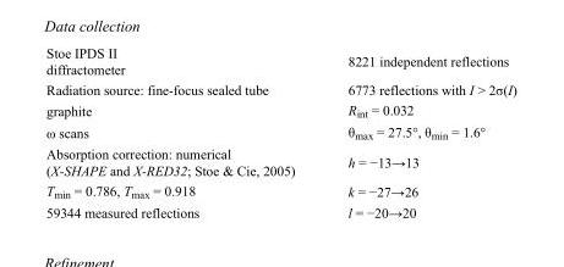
<table><tbody><tr><td>Stoe IPDS II diffractometer</td><td>8221 independent reflections</td></tr><tr><td>Radiation source: fine-focus sealed tube</td><td>6773 reflections with I &gt; 2σ(I)</td></tr><tr><td>graphite</td><td>R<sub>int</sub> = 0.032</td></tr><tr><td>ω scans</td><td>θ<sub>max</sub> = 27.5°, θ<sub>min</sub> = 1.6°</td></tr><tr><td>Absorption correction: numerical (X-SHAPE and X-RED32; Stoe &amp; Cie, 2005)</td><td>h = −13→13</td></tr><tr><td>T<sub>min</sub> = 0.786, T<sub>max</sub> = 0.918</td><td>k = −27→26</td></tr><tr><td>59344 measured reflections</td><td>l = −20→20</td></tr></tbody></table>